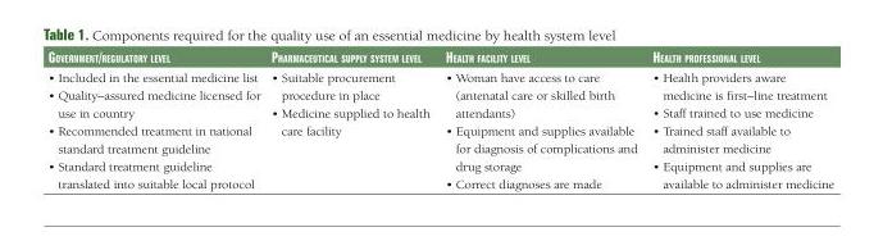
<table><thead><tr><td>Government/reGulatory level</td><td>Pharmaceutical suPPly system level</td><td>health facility level</td><td>health Professional level</td></tr></thead><tbody><tr><td>• Included in the essential medicine list • Quality–assured medicine licensed for use in country • Recommended treatment in national standard treatment guideline • Standard treatment guideline translated into suitable local protocol</td><td>• Suitable procurement procedure in place • Medicine supplied to health care facility</td><td>• Woman have access to care (antenatal care or skilled birth attendants) • Equipment and supplies available for diagnosis of complications and drug storage • Correct diagnoses are made</td><td>• Health providers aware medicine is first–line treatment • Staff trained to use medicine • Trained staff available to administer medicine • Equipment and supplies are available to administer medicine</td></tr></tbody></table>